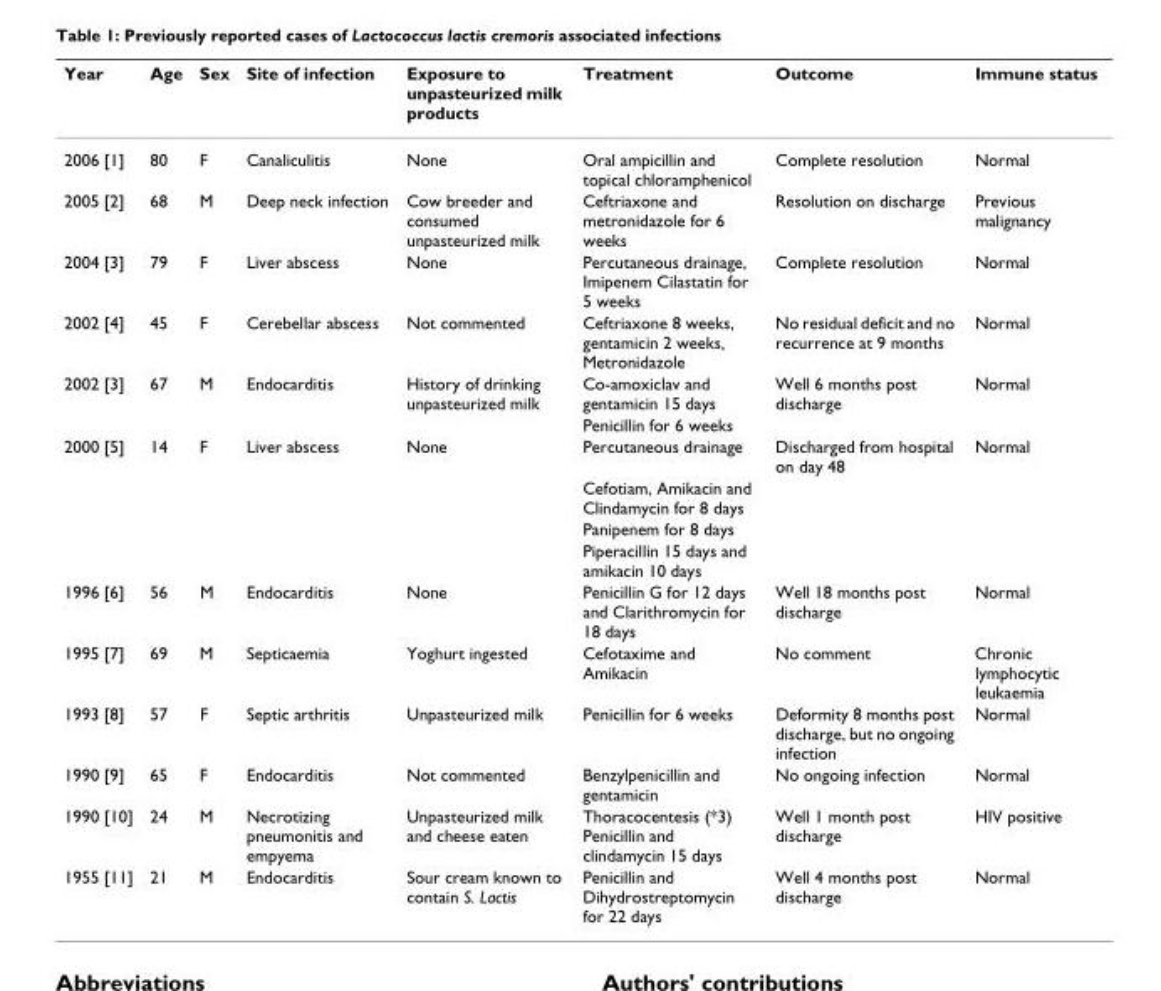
<table><thead><tr><td>Year</td><td>Age</td><td>Sex</td><td>Site of infection</td><td>Exposure to unpasteurized milk products</td><td>Treatment</td><td>Outcome</td><td>Immune status</td></tr></thead><tbody><tr><td>2006 [1]</td><td>80</td><td>F</td><td>Canaliculitis</td><td>None</td><td>Oral ampicillin and topical chloramphenicol</td><td>Complete resolution</td><td>Normal</td></tr><tr><td>2005 [2]</td><td>68</td><td>M</td><td>Deep neck infection</td><td>Cow breeder and consumed unpasteurized milk</td><td>Ceftriaxone and metronidazole for 6 weeks</td><td>Resolution on discharge</td><td>Previous malignancy</td></tr><tr><td>2004 [3]</td><td>79</td><td>F</td><td>Liver abscess</td><td>None</td><td>Percutaneous drainage, Imipenem Cilastatin for 5 weeks</td><td>Complete resolution</td><td>Normal</td></tr><tr><td>2002 [4]</td><td>45</td><td>F</td><td>Cerebellar abscess</td><td>Not commented</td><td>Ceftriaxone 8 weeks, gentamicin 2 weeks, Metronidazole</td><td>No residual deficit and no recurrence at 9 months</td><td>Normal</td></tr><tr><td rowspan="2">2002 [3]</td><td>67</td><td>M</td><td>Endocarditis</td><td>History of drinking unpasteurized milk</td><td>Co-amoxiclav and gentamicin 15 days</td><td>Well 6 months post discharge</td><td>Normal</td></tr><tr><td></td><td></td><td></td><td></td><td>Penicillin for 6 weeks</td><td></td><td></td></tr><tr><td rowspan="4">2000 [5]</td><td>14</td><td>F</td><td>Liver abscess</td><td>None</td><td>Percutaneous drainage</td><td>Discharged from hospital on day 48</td><td>Normal</td></tr><tr><td></td><td></td><td></td><td></td><td>Cefotiam, Amikacin and Clindamycin for 8 days</td><td></td><td></td></tr><tr><td></td><td></td><td></td><td></td><td>Panipenem for 8 days</td><td></td><td></td></tr><tr><td></td><td></td><td></td><td></td><td>Piperacillin 15 days and amikacin 10 days</td><td></td><td></td></tr><tr><td>1996 [6]</td><td>56</td><td>M</td><td>Endocarditis</td><td>None</td><td>Penicillin G for 12 days and Clarithromycin for 18 days</td><td>Well 18 months post discharge</td><td>Normal</td></tr><tr><td>1995 [7]</td><td>69</td><td>M</td><td>Septicaemia</td><td>Yoghurt ingested</td><td>Cefotaxime and Amikacin</td><td>No comment</td><td>Chronic lymphocytic leukaemia</td></tr><tr><td>1993 [8]</td><td>57</td><td>F</td><td>Septic arthritis</td><td>Unpasteurized milk</td><td>Penicillin for 6 weeks</td><td>Deformity 8 months post discharge, but no ongoing infection</td><td>Normal</td></tr><tr><td>1990 [9]</td><td>65</td><td>F</td><td>Endocarditis</td><td>Not commented</td><td>Benzylpenicillin and gentamicin</td><td>No ongoing infection</td><td>Normal</td></tr><tr><td>1990 [10]</td><td>24</td><td>M</td><td>Necrotizing pneumonitis and empyema</td><td>Unpasteurized milk and cheese eaten</td><td>Thoracocentesis (*3) Penicillin and clindamycin 15 days</td><td>Well 1 month post discharge</td><td>HIV positive</td></tr><tr><td>1955 [11]</td><td>21</td><td>M</td><td>Endocarditis</td><td>Sour cream known to contain S. Lactis</td><td>Penicillin and Dihydrostreptomycin for 22 days</td><td>Well 4 months post discharge</td><td>Normal</td></tr></tbody></table>